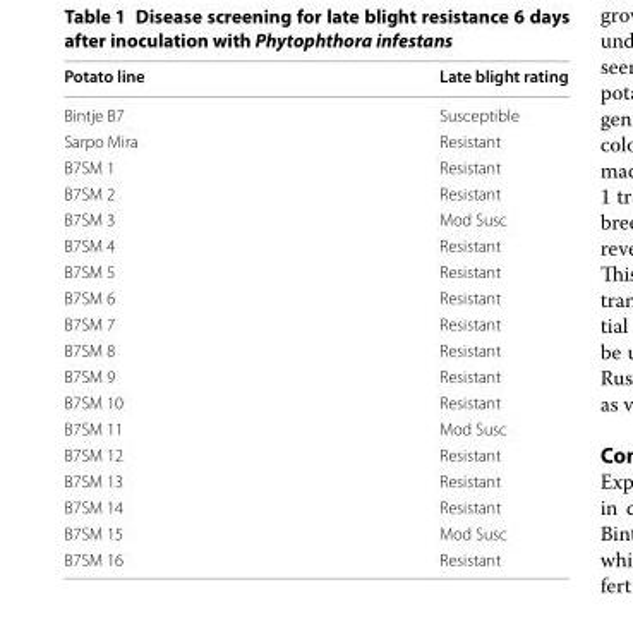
<table><thead><tr><td>Potato line</td><td>Late blight rating</td></tr></thead><tbody><tr><td>Bintje B7</td><td>Susceptible</td></tr><tr><td>Sarpo Mira</td><td>Resistant</td></tr><tr><td>B7SM 1</td><td>Resistant</td></tr><tr><td>B7SM 2</td><td>Resistant</td></tr><tr><td>B7SM 3</td><td>Mod Susc</td></tr><tr><td>B7SM 4</td><td>Resistant</td></tr><tr><td>B7SM 5</td><td>Resistant</td></tr><tr><td>B7SM 6</td><td>Resistant</td></tr><tr><td>B7SM 7</td><td>Resistant</td></tr><tr><td>B7SM 8</td><td>Resistant</td></tr><tr><td>B7SM 9</td><td>Resistant</td></tr><tr><td>B7SM 10</td><td>Resistant</td></tr><tr><td>B7SM 11</td><td>Mod Susc</td></tr><tr><td>B7SM 12</td><td>Resistant</td></tr><tr><td>B7SM 13</td><td>Resistant</td></tr><tr><td>B7SM 14</td><td>Resistant</td></tr><tr><td>B7SM 15</td><td>Mod Susc</td></tr><tr><td>B7SM 16</td><td>Resistant</td></tr></tbody></table>